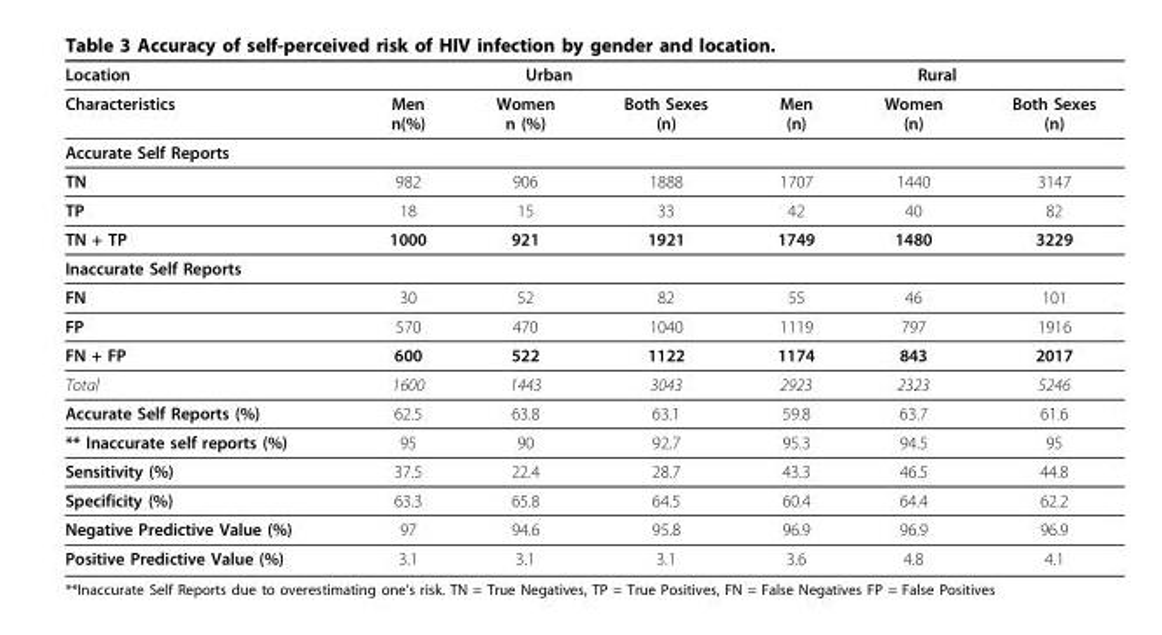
<table><thead><tr><td rowspan="2">Location Characteristics</td><td colspan="3">Urban</td><td colspan="3">Rural</td></tr><tr><td>Men n(%)</td><td>Women n (%)</td><td>Both Sexes (n)</td><td>Men (n)</td><td>Women (n)</td><td>Both Sexes (n)</td></tr></thead><tbody><tr><td colspan="7">Accurate Self Reports</td></tr><tr><td>TN</td><td>982</td><td>906</td><td>1888</td><td>1707</td><td>1440</td><td>3147</td></tr><tr><td>TP</td><td>18</td><td>15</td><td>33</td><td>42</td><td>40</td><td>82</td></tr><tr><td>TN + TP</td><td>1000</td><td>921</td><td>1921</td><td>1749</td><td>1480</td><td>3229</td></tr><tr><td colspan="7">Inaccurate Self Reports</td></tr><tr><td>FN</td><td>30</td><td>52</td><td>82</td><td>55</td><td>46</td><td>101</td></tr><tr><td>FP</td><td>570</td><td>470</td><td>1040</td><td>1119</td><td>797</td><td>1916</td></tr><tr><td>FN + FP</td><td>600</td><td>522</td><td>1122</td><td>1174</td><td>843</td><td>2017</td></tr><tr><td>Total</td><td>1600</td><td>1443</td><td>3043</td><td>2923</td><td>2323</td><td>5246</td></tr><tr><td>Accurate Self Reports (%)</td><td>62.5</td><td>63.8</td><td>63.1</td><td>59.8</td><td>63.7</td><td>61.6</td></tr><tr><td>** Inaccurate self reports (%)</td><td>95</td><td>90</td><td>92.7</td><td>95.3</td><td>94.5</td><td>95</td></tr><tr><td>Sensitivity (%)</td><td>37.5</td><td>22.4</td><td>28.7</td><td>43.3</td><td>46.5</td><td>44.8</td></tr><tr><td>Specificity (%)</td><td>63.3</td><td>65.8</td><td>64.5</td><td>60.4</td><td>64.4</td><td>62.2</td></tr><tr><td>Negative Predictive Value (%)</td><td>97</td><td>94.6</td><td>95.8</td><td>96.9</td><td>96.9</td><td>96.9</td></tr><tr><td>Positive Predictive Value (%)</td><td>3.1</td><td>3.1</td><td>3.1</td><td>3.6</td><td>4.8</td><td>4.1</td></tr></tbody></table>